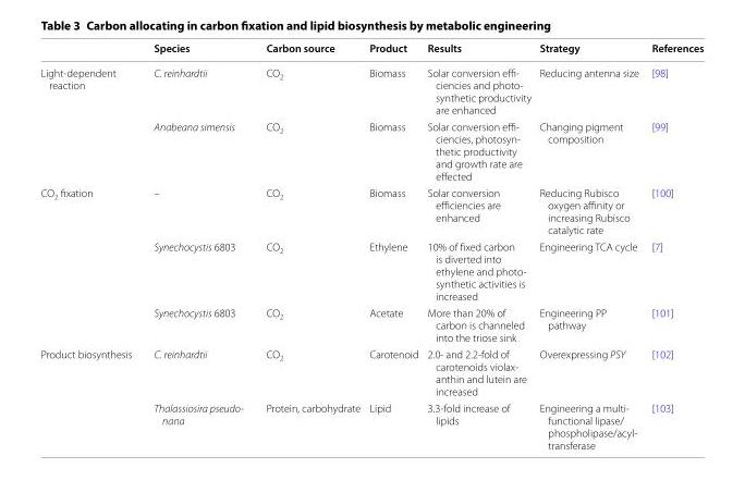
<table><thead><tr><td></td><td>Species</td><td>Carbon source</td><td>Product</td><td>Results</td><td>Strategy</td><td>References</td></tr></thead><tbody><tr><td rowspan="2">Light-dependent reaction</td><td>C. reinhardtii</td><td>CO<sub>2</sub></td><td>Biomass</td><td>Solar conversion effi- ciencies and photo- synthetic productivity are enhanced</td><td>Reducing antenna size</td><td>[98]</td></tr><tr><td>Anabeana simensis</td><td>CO<sub>2</sub></td><td>Biomass</td><td>Solar conversion effi- ciencies, photosyn- thetic productivity and growth rate are effected</td><td>Changing pigment composition</td><td>[99]</td></tr><tr><td rowspan="3">CO<sub>2</sub> fixation</td><td>–</td><td>CO<sub>2</sub></td><td>Biomass</td><td>Solar conversion efficiencies are enhanced</td><td>Reducing Rubisco oxygen affinity or increasing Rubisco catalytic rate</td><td>[100]</td></tr><tr><td>Synechocystis 6803</td><td>CO<sub>2</sub></td><td>Ethylene</td><td>10% of fixed carbon is diverted into ethylene and photo- synthetic activities is increased</td><td>Engineering TCA cycle</td><td>[7]</td></tr><tr><td>Synechocystis 6803</td><td>CO<sub>2</sub></td><td>Acetate</td><td>More than 20% of carbon is channeled into the triose sink</td><td>Engineering PP pathway</td><td>[101]</td></tr><tr><td rowspan="2">Product biosynthesis</td><td>C. reinhardtii</td><td>CO<sub>2</sub></td><td>Carotenoid</td><td>2.0- and 2.2-fold of carotenoids violax- anthin and lutein are increased</td><td>Overexpressing PSY</td><td>[102]</td></tr><tr><td>Thalassiosira pseudo- nana</td><td>Protein, carbohydrate</td><td>Lipid</td><td>3.3-fold increase of lipids</td><td>Engineering a multi- functional lipase/ phospholipase/acyl- transferase</td><td>[103]</td></tr></tbody></table>